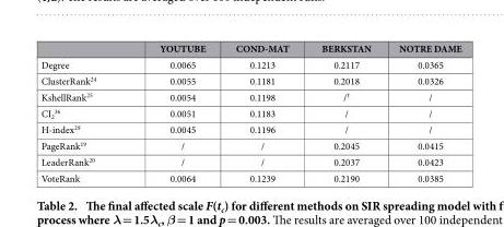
<table><thead><tr><td></td><td>YOUTUBE</td><td>COND-MAT</td><td>BERKSTAN</td><td>NOTRE DAME</td></tr></thead><tbody><tr><td>Degree</td><td>0.0065</td><td>0.1213</td><td>0.2117</td><td>0.0365</td></tr><tr><td>ClusterRank<sup>24</sup></td><td>0.0055</td><td>0.1181</td><td>0.2018</td><td>0.0326</td></tr><tr><td>KshellRank<sup>25</sup></td><td>0.0054</td><td>0.1198</td><td>/<sup>†</sup></td><td>/</td></tr><tr><td>CI<sub>2</sub> <sup>36</sup></td><td>0.0051</td><td>0.1183</td><td>/</td><td>/</td></tr><tr><td>H-index<sup>29</sup></td><td>0.0045</td><td>0.1196</td><td>/</td><td>/</td></tr><tr><td>PageRank<sup>19</sup></td><td>/</td><td>/</td><td>0.2045</td><td>0.0415</td></tr><tr><td>LeaderRank<sup>20</sup></td><td>/</td><td>/</td><td>0.2037</td><td>0.0423</td></tr><tr><td>VoteRank</td><td>0.0064</td><td>0.1239</td><td>0.2190</td><td>0.0385</td></tr></tbody></table>